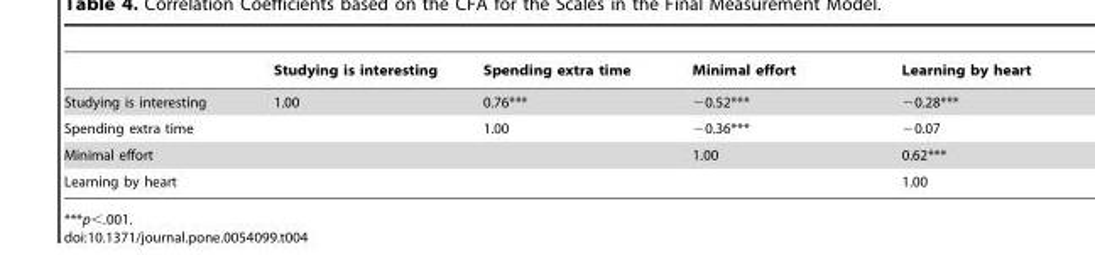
<table><thead><tr><td></td><td>Studying is interesting</td><td>Spending extra time</td><td>Minimal effort</td><td>Learning by heart</td></tr></thead><tbody><tr><td>Studying is interesting</td><td>1.00</td><td>0.76***</td><td>−0.52***</td><td>−0.28***</td></tr><tr><td>Spending extra time</td><td></td><td>1.00</td><td>−0.36***</td><td>−0.07</td></tr><tr><td>Minimal effort</td><td></td><td></td><td>1.00</td><td>0.62***</td></tr><tr><td>Learning by heart</td><td></td><td></td><td></td><td>1.00</td></tr></tbody></table>